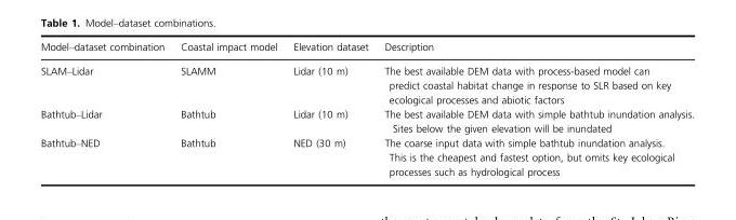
<table><thead><tr><td>Model–dataset combination</td><td>Coastal impact model</td><td>Elevation dataset</td><td>Description</td></tr></thead><tbody><tr><td>SLAM–Lidar</td><td>SLAMM</td><td>Lidar (10 m)</td><td>The best available DEM data with process-based model can predict coastal habitat change in response to SLR based on key ecological processes and abiotic factors</td></tr><tr><td>Bathtub–Lidar</td><td>Bathtub</td><td>Lidar (10 m)</td><td>The best available DEM data with simple bathtub inundation analysis. Sites below the given elevation will be inundated</td></tr><tr><td>Bathtub–NED</td><td>Bathtub</td><td>NED (30 m)</td><td>The coarse input data with simple bathtub inundation analysis. This is the cheapest and fastest option, but omits key ecological processes such as hydrological process</td></tr></tbody></table>